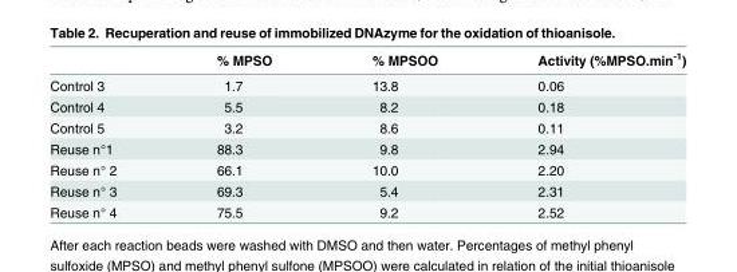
<table><thead><tr><td></td><td>% MPSO</td><td>% MPSOO</td><td>Activity (%MPSO.min<sup>-1</sup>)</td></tr></thead><tbody><tr><td>Control 3</td><td>1.7</td><td>13.8</td><td>0.06</td></tr><tr><td>Control 4</td><td>5.5</td><td>8.2</td><td>0.18</td></tr><tr><td>Control 5</td><td>3.2</td><td>8.6</td><td>0.11</td></tr><tr><td>Reuse n°1</td><td>88.3</td><td>9.8</td><td>2.94</td></tr><tr><td>Reuse n° 2</td><td>66.1</td><td>10.0</td><td>2.20</td></tr><tr><td>Reuse n° 3</td><td>69.3</td><td>5.4</td><td>2.31</td></tr><tr><td>Reuse n° 4</td><td>75.5</td><td>9.2</td><td>2.52</td></tr></tbody></table>